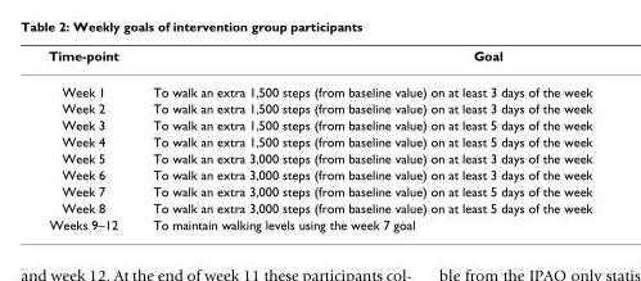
<table><thead><tr><td>Time-point</td><td>Goal</td></tr></thead><tbody><tr><td>Week 1</td><td>To walk an extra 1,500 steps (from baseline value) on at least 3 days of the week</td></tr><tr><td>Week 2</td><td>To walk an extra 1,500 steps (from baseline value) on at least 3 days of the week</td></tr><tr><td>Week 3</td><td>To walk an extra 1,500 steps (from baseline value) on at least 5 days of the week</td></tr><tr><td>Week 4</td><td>To walk an extra 1,500 steps (from baseline value) on at least 5 days of the week</td></tr><tr><td>Week 5</td><td>To walk an extra 3,000 steps (from baseline value) on at least 3 days of the week</td></tr><tr><td>Week 6</td><td>To walk an extra 3,000 steps (from baseline value) on at least 3 days of the week</td></tr><tr><td>Week 7</td><td>To walk an extra 3,000 steps (from baseline value) on at least 5 days of the week</td></tr><tr><td>Week 8</td><td>To walk an extra 3,000 steps (from baseline value) on at least 5 days of the week</td></tr><tr><td>Weeks 9–12</td><td>To maintain walking levels using the week 7 goal</td></tr></tbody></table>